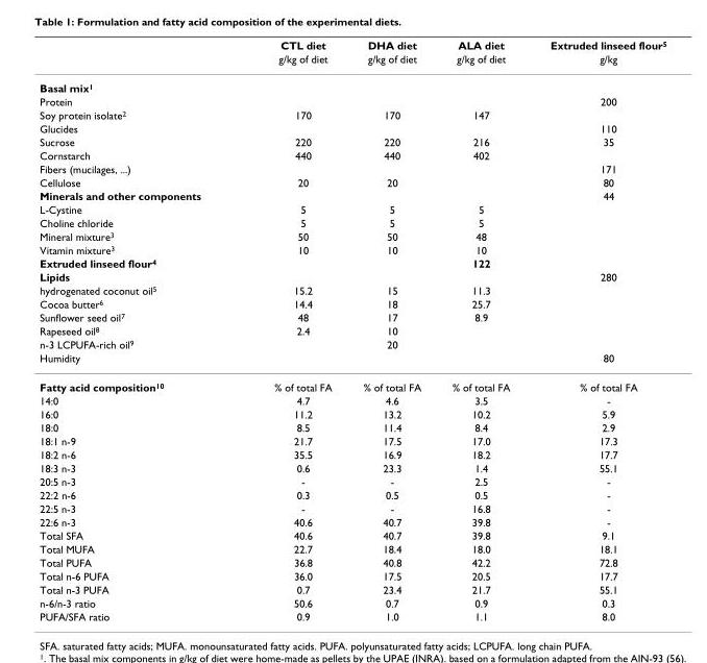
<table><thead><tr><td rowspan="2"></td><td rowspan="2">CTL diet g/kg of diet</td><td rowspan="2">DHA diet g/kg of diet</td><td rowspan="2">ALA diet g/kg of diet</td><td rowspan="2">Extruded linseed flour<sup>5</sup> g/kg</td></tr><tr></tr></thead><tbody><tr><td colspan="5">Basal mix<sup>1</sup></td></tr><tr><td>Protein</td><td></td><td></td><td></td><td>200</td></tr><tr><td>Soy protein isolate<sup>2</sup></td><td>170</td><td>170</td><td>147</td><td></td></tr><tr><td>Glucides</td><td></td><td></td><td></td><td>110</td></tr><tr><td>Sucrose</td><td>220</td><td>220</td><td>216</td><td>35</td></tr><tr><td>Cornstarch</td><td>440</td><td>440</td><td>402</td><td></td></tr><tr><td>Fibers (mucilages, ...)</td><td></td><td></td><td></td><td>171</td></tr><tr><td>Cellulose</td><td>20</td><td>20</td><td></td><td>80</td></tr><tr><td>Minerals and other components</td><td></td><td></td><td></td><td>44</td></tr><tr><td>L-Cystine</td><td>5</td><td>5</td><td>5</td><td></td></tr><tr><td>Choline chloride</td><td>5</td><td>5</td><td>5</td><td></td></tr><tr><td>Mineral mixture<sup>3</sup></td><td>50</td><td>50</td><td>48</td><td></td></tr><tr><td>Vitamin mixture<sup>3</sup></td><td>10</td><td>10</td><td>10</td><td></td></tr><tr><td>Extruded linseed flour<sup>4</sup></td><td></td><td></td><td>122</td><td></td></tr><tr><td>Lipids</td><td></td><td></td><td></td><td>280</td></tr><tr><td>hydrogenated coconut oil<sup>5</sup></td><td>15.2</td><td>15</td><td>11.3</td><td></td></tr><tr><td>Cocoa butter<sup>6</sup></td><td>14.4</td><td>18</td><td>25.7</td><td></td></tr><tr><td>Sunflower seed oil<sup>7</sup></td><td>48</td><td>17</td><td>8.9</td><td></td></tr><tr><td>Rapeseed oil<sup>8</sup></td><td>2.4</td><td>10</td><td></td><td></td></tr><tr><td>n-3 LCPUFA-rich oil<sup>9</sup></td><td></td><td>20</td><td></td><td></td></tr><tr><td>Humidity</td><td></td><td></td><td></td><td>80</td></tr><tr><td>Fatty acid composition<sup>10</sup></td><td>% of total FA</td><td>% of total FA</td><td>% of total FA</td><td>% of total FA</td></tr><tr><td>14:0</td><td>4.7</td><td>4.6</td><td>3.5</td><td>-</td></tr><tr><td>16:0</td><td>11.2</td><td>13.2</td><td>10.2</td><td>5.9</td></tr><tr><td>18:0</td><td>8.5</td><td>11.4</td><td>8.4</td><td>2.9</td></tr><tr><td>18:1 n-9</td><td>21.7</td><td>17.5</td><td>17.0</td><td>17.3</td></tr><tr><td>18:2 n-6</td><td>35.5</td><td>16.9</td><td>18.2</td><td>17.7</td></tr><tr><td>18:3 n-3</td><td>0.6</td><td>23.3</td><td>1.4</td><td>55.1</td></tr><tr><td>20:5 n-3</td><td>-</td><td>-</td><td>2.5</td><td>-</td></tr><tr><td>22:2 n-6</td><td>0.3</td><td>0.5</td><td>0.5</td><td>-</td></tr><tr><td>22:5 n-3</td><td>-</td><td>-</td><td>16.8</td><td>-</td></tr><tr><td>22:6 n-3</td><td>40.6</td><td>40.7</td><td>39.8</td><td>-</td></tr><tr><td>Total SFA</td><td>40.6</td><td>40.7</td><td>39.8</td><td>9.1</td></tr><tr><td>Total MUFA</td><td>22.7</td><td>18.4</td><td>18.0</td><td>18.1</td></tr><tr><td>Total PUFA</td><td>36.8</td><td>40.8</td><td>42.2</td><td>72.8</td></tr><tr><td>Total n-6 PUFA</td><td>36.0</td><td>17.5</td><td>20.5</td><td>17.7</td></tr><tr><td>Total n-3 PUFA</td><td>0.7</td><td>23.4</td><td>21.7</td><td>55.1</td></tr><tr><td>n-6/n-3 ratio</td><td>50.6</td><td>0.7</td><td>0.9</td><td>0.3</td></tr><tr><td>PUFA/SFA ratio</td><td>0.9</td><td>1.0</td><td>1.1</td><td>8.0</td></tr></tbody></table>